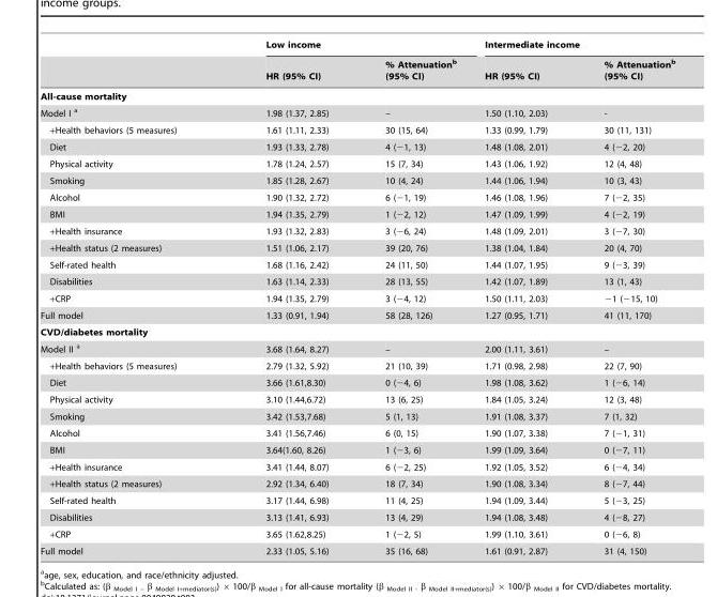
<table><thead><tr><td rowspan="2"></td><td colspan="2">Low income</td><td colspan="2">Intermediate income</td></tr><tr><td>HR (95% CI)</td><td>% Attenuation<sup>b</sup> (95% CI)</td><td>HR (95% CI)</td><td>% Attenuation<sup>b</sup> (95% CI)</td></tr></thead><tbody><tr><td colspan="5">All-cause mortality</td></tr><tr><td>Model I a</td><td>1.98 (1.37, 2.85)</td><td>–</td><td>1.50 (1.10, 2.03)</td><td>-</td></tr><tr><td>+Health behaviors (5 measures)</td><td>1.61 (1.11, 2.33)</td><td>30 (15, 64)</td><td>1.33 (0.99, 1.79)</td><td>30 (11, 131)</td></tr><tr><td>Diet</td><td>1.93 (1.33, 2.78)</td><td>4 (−1, 13)</td><td>1.48 (1.08, 2.01)</td><td>4 (−2, 20)</td></tr><tr><td>Physical activity</td><td>1.78 (1.24, 2.57)</td><td>15 (7, 34)</td><td>1.43 (1.06, 1.92)</td><td>12 (4, 48)</td></tr><tr><td>Smoking</td><td>1.85 (1.28, 2.67)</td><td>10 (4, 24)</td><td>1.44 (1.06, 1.94)</td><td>10 (3, 43)</td></tr><tr><td>Alcohol</td><td>1.90 (1.32, 2.72)</td><td>6 (−1, 19)</td><td>1.46 (1.08, 1.96)</td><td>7 (−2, 35)</td></tr><tr><td>BMI</td><td>1.94 (1.35, 2.79)</td><td>1 (−2, 12)</td><td>1.47 (1.09, 1.99)</td><td>4 (−2, 19)</td></tr><tr><td>+Health insurance</td><td>1.93 (1.32, 2.83)</td><td>3 (−6, 24)</td><td>1.48 (1.09, 2.01)</td><td>3 (−7, 30)</td></tr><tr><td>+Health status (2 measures)</td><td>1.51 (1.06, 2.17)</td><td>39 (20, 76)</td><td>1.38 (1.04, 1.84)</td><td>20 (4, 70)</td></tr><tr><td>Self-rated health</td><td>1.68 (1.16, 2.42)</td><td>24 (11, 50)</td><td>1.44 (1.07, 1.95)</td><td>9 (−3, 39)</td></tr><tr><td>Disabilities</td><td>1.63 (1.14, 2.33)</td><td>28 (13, 55)</td><td>1.42 (1.07, 1.89)</td><td>13 (1, 43)</td></tr><tr><td>+CRP</td><td>1.94 (1.35, 2.79)</td><td>3 (−4, 12)</td><td>1.50 (1.11, 2.03)</td><td>−1 (−15, 10)</td></tr><tr><td>Full model</td><td>1.33 (0.91, 1.94)</td><td>58 (28, 126)</td><td>1.27 (0.95, 1.71)</td><td>41 (11, 170)</td></tr><tr><td colspan="5">CVD/diabetes mortality</td></tr><tr><td>Model II a</td><td>3.68 (1.64, 8.27)</td><td>–</td><td>2.00 (1.11, 3.61)</td><td>–</td></tr><tr><td>+Health behaviors (5 measures)</td><td>2.79 (1.32, 5.92)</td><td>21 (10, 39)</td><td>1.71 (0.98, 2.98)</td><td>22 (7, 90)</td></tr><tr><td>Diet</td><td>3.66 (1.61,8.30)</td><td>0 (−4, 6)</td><td>1.98 (1.08, 3.62)</td><td>1 (−6, 14)</td></tr><tr><td>Physical activity</td><td>3.10 (1.44,6.72)</td><td>13 (6, 25)</td><td>1.84 (1.05, 3.24)</td><td>12 (3, 48)</td></tr><tr><td>Smoking</td><td>3.42 (1.53,7.68)</td><td>5 (1, 13)</td><td>1.91 (1.08, 3.37)</td><td>7 (1, 32)</td></tr><tr><td>Alcohol</td><td>3.41 (1.56,7.46)</td><td>6 (0, 15)</td><td>1.90 (1.07, 3.38)</td><td>7 (−1, 31)</td></tr><tr><td>BMI</td><td>3.64(1.60, 8.26)</td><td>1 (−3, 6)</td><td>1.99 (1.09, 3.64)</td><td>0 (−7, 11)</td></tr><tr><td>+Health insurance</td><td>3.41 (1.44, 8.07)</td><td>6 (−2, 25)</td><td>1.92 (1.05, 3.52)</td><td>6 (−4, 34)</td></tr><tr><td>+Health status (2 measures)</td><td>2.92 (1.34, 6.40)</td><td>18 (7, 34)</td><td>1.90 (1.08, 3.34)</td><td>8 (−7, 44)</td></tr><tr><td>Self-rated health</td><td>3.17 (1.44, 6.98)</td><td>11 (4, 25)</td><td>1.94 (1.09, 3.44)</td><td>5 (−3, 25)</td></tr><tr><td>Disabilities</td><td>3.13 (1.41, 6.93)</td><td>13 (4, 29)</td><td>1.94 (1.08, 3.48)</td><td>4 (−8, 27)</td></tr><tr><td>+CRP</td><td>3.65 (1.62,8.25)</td><td>1 (−2, 5)</td><td>1.99 (1.10, 3.61)</td><td>0 (−6, 8)</td></tr><tr><td>Full model</td><td>2.33 (1.05, 5.16)</td><td>35 (16, 68)</td><td>1.61 (0.91, 2.87)</td><td>31 (4, 150)</td></tr></tbody></table>